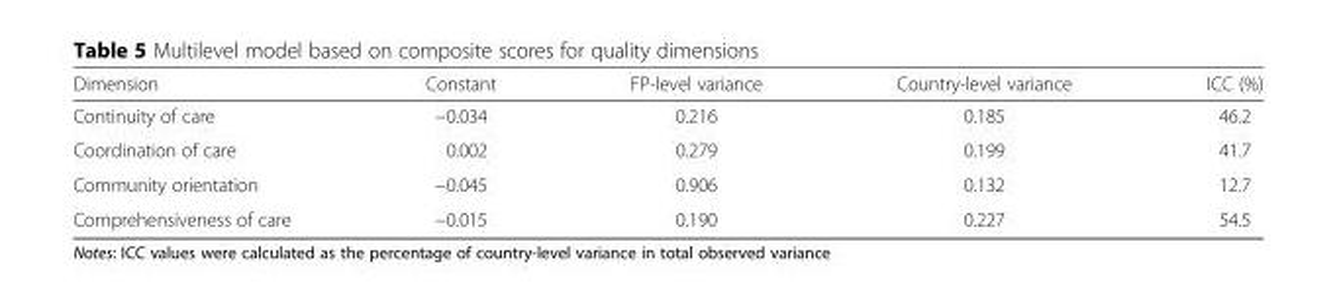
<table><thead><tr><td>Dimension</td><td>Constant</td><td>FP-level variance</td><td>Country-level variance</td><td>ICC (%)</td></tr></thead><tbody><tr><td>Continuity of care</td><td>−0.034</td><td>0.216</td><td>0.185</td><td>46.2</td></tr><tr><td>Coordination of care</td><td>0.002</td><td>0.279</td><td>0.199</td><td>41.7</td></tr><tr><td>Community orientation</td><td>−0.045</td><td>0.906</td><td>0.132</td><td>12.7</td></tr><tr><td>Comprehensiveness of care</td><td>−0.015</td><td>0.190</td><td>0.227</td><td>54.5</td></tr></tbody></table>